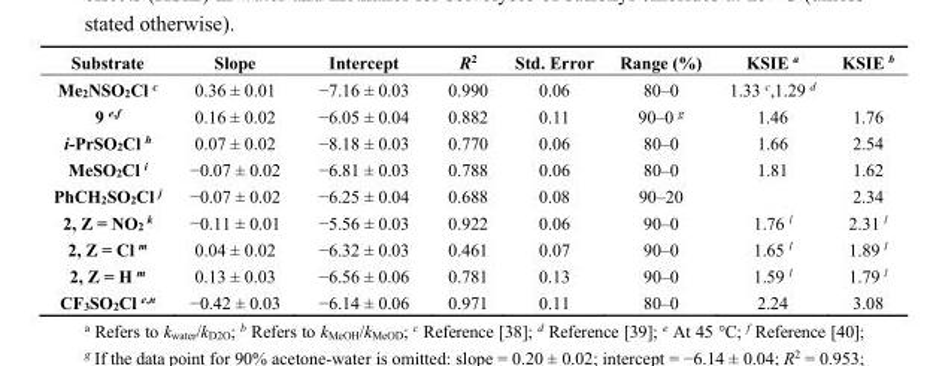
<table><thead><tr><td>Substrate</td><td>Slope</td><td>Intercept</td><td>R<sup>2</sup></td><td>Std. Error</td><td>Range (%)</td><td>KSIE <sup>a</sup></td><td>KSIE <sup>b</sup></td></tr></thead><tbody><tr><td>Me<sub>2</sub>NSO<sub>2</sub>Cl <sup>c</sup></td><td>0.36 ± 0.01</td><td>−7.16 ± 0.03</td><td>0.990</td><td>0.06</td><td>80–0</td><td>1.33 <sup>c</sup>,1.29 <sup>d</sup></td><td></td></tr><tr><td>9 <sup>e,f</sup></td><td>0.16 ± 0.02</td><td>−6.05 ± 0.04</td><td>0.882</td><td>0.11</td><td>90–0 <sup>g</sup></td><td>1.46</td><td>1.76</td></tr><tr><td>i-PrSO<sub>2</sub>Cl <sup>h</sup></td><td>0.07 ± 0.02</td><td>−8.18 ± 0.03</td><td>0.770</td><td>0.06</td><td>80–0</td><td>1.66</td><td>2.54</td></tr><tr><td>MeSO<sub>2</sub>Cl <sup>i</sup></td><td>−0.07 ± 0.02</td><td>−6.81 ± 0.03</td><td>0.788</td><td>0.06</td><td>80–0</td><td>1.81</td><td>1.62</td></tr><tr><td>PhCH<sub>2</sub>SO<sub>2</sub>Cl <sup>j</sup></td><td>−0.07 ± 0.02</td><td>−6.25 ± 0.04</td><td>0.688</td><td>0.08</td><td>90–20</td><td></td><td>2.34</td></tr><tr><td>2, Z = NO<sub>2</sub> <sup>k</sup></td><td>−0.11 ± 0.01</td><td>−5.56 ± 0.03</td><td>0.922</td><td>0.06</td><td>90–0</td><td>1.76 <sup>l</sup></td><td>2.31 <sup>l</sup></td></tr><tr><td>2, Z = Cl <sup>m</sup></td><td>0.04 ± 0.02</td><td>−6.32 ± 0.03</td><td>0.461</td><td>0.07</td><td>90–0</td><td>1.65 <sup>l</sup></td><td>1.89 <sup>l</sup></td></tr><tr><td>2, Z = H <sup>m</sup></td><td>0.13 ± 0.03</td><td>−6.56 ± 0.06</td><td>0.781</td><td>0.13</td><td>90–0</td><td>1.59 <sup>l</sup></td><td>1.79 <sup>l</sup></td></tr><tr><td>CF<sub>3</sub>SO<sub>2</sub>Cl <sup>e,n</sup></td><td>−0.42 ± 0.03</td><td>−6.14 ± 0.06</td><td>0.971</td><td>0.11</td><td>80–0</td><td>2.24</td><td>3.08</td></tr></tbody></table>